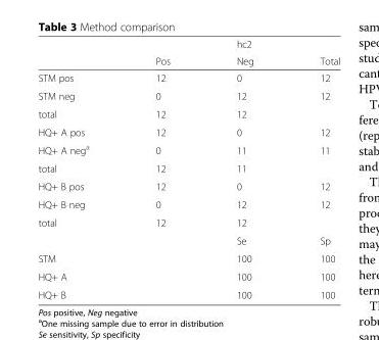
<table><thead><tr><td rowspan="2"></td><td rowspan="2">Pos</td><td rowspan="2">hc2 Neg</td><td rowspan="2">Total</td></tr><tr></tr></thead><tbody><tr><td>STM pos</td><td>12</td><td>0</td><td>12</td></tr><tr><td>STM neg</td><td>0</td><td>12</td><td>12</td></tr><tr><td>total</td><td>12</td><td>12</td><td></td></tr><tr><td>HQ+ A pos</td><td>12</td><td>0</td><td>12</td></tr><tr><td>HQ+ A neg<sup>a</sup></td><td>0</td><td>11</td><td>11</td></tr><tr><td>total</td><td>12</td><td>11</td><td></td></tr><tr><td>HQ+ B pos</td><td>12</td><td>0</td><td>12</td></tr><tr><td>HQ+ B neg</td><td>0</td><td>12</td><td>12</td></tr><tr><td>total</td><td>12</td><td>12</td><td></td></tr><tr><td colspan="2"></td><td>Se</td><td>Sp</td></tr><tr><td colspan="2">STM</td><td>100</td><td>100</td></tr><tr><td colspan="2">HQ+ A</td><td>100</td><td>100</td></tr><tr><td colspan="2">HQ+ B</td><td>100</td><td>100</td></tr></tbody></table>